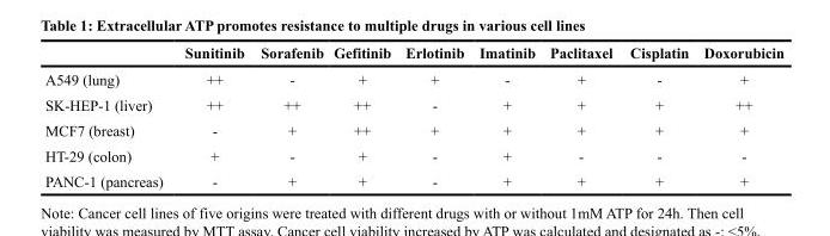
<table><thead><tr><td></td><td>Sunitinib</td><td>Sorafenib</td><td>Gefitinib</td><td>Erlotinib</td><td>Imatinib</td><td>Paclitaxel</td><td>Cisplatin</td><td>Doxorubicin</td></tr></thead><tbody><tr><td>A549 (lung)</td><td>++</td><td>-</td><td>+</td><td>+</td><td>-</td><td>+</td><td>-</td><td>+</td></tr><tr><td>SK-HEP-1 (liver)</td><td>++</td><td>++</td><td>++</td><td>-</td><td>+</td><td>+</td><td>+</td><td>++</td></tr><tr><td>MCF7 (breast)</td><td>-</td><td>+</td><td>++</td><td>+</td><td>+</td><td>+</td><td>+</td><td>+</td></tr><tr><td>HT-29 (colon)</td><td>+</td><td>-</td><td>+</td><td>-</td><td>+</td><td>-</td><td>-</td><td>-</td></tr><tr><td>PANC-1 (pancreas)</td><td>-</td><td>+</td><td>+</td><td>-</td><td>+</td><td>+</td><td>+</td><td>+</td></tr></tbody></table>